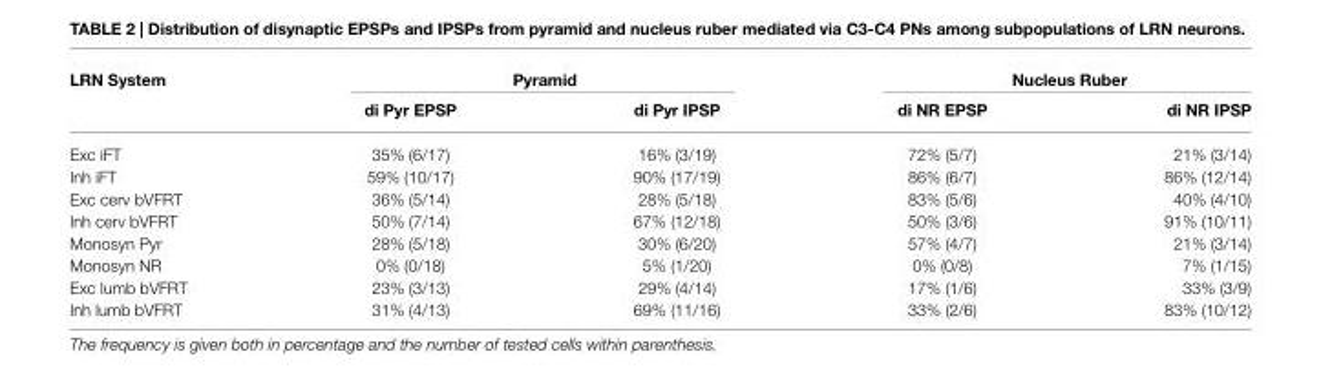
<table><thead><tr><td rowspan="2">LRN System</td><td colspan="2">Pyramid</td><td colspan="2">Nucleus Ruber</td></tr><tr><td>di Pyr EPSP</td><td>di Pyr IPSP</td><td>di NR EPSP</td><td>di NR IPSP</td></tr></thead><tbody><tr><td>Exc iFT</td><td>35% (6/17)</td><td>16% (3/19)</td><td>72% (5/7)</td><td>21% (3/14)</td></tr><tr><td>Inh iFT</td><td>59% (10/17)</td><td>90% (17/19)</td><td>86% (6/7)</td><td>86% (12/14)</td></tr><tr><td>Exc cerv bVFRT</td><td>36% (5/14)</td><td>28% (5/18)</td><td>83% (5/6)</td><td>40% (4/10)</td></tr><tr><td>Inh cerv bVFRT</td><td>50% (7/14)</td><td>67% (12/18)</td><td>50% (3/6)</td><td>91% (10/11)</td></tr><tr><td>Monosyn Pyr</td><td>28% (5/18)</td><td>30% (6/20)</td><td>57% (4/7)</td><td>21% (3/14)</td></tr><tr><td>Monosyn NR</td><td>0% (0/18)</td><td>5% (1/20)</td><td>0% (0/8)</td><td>7% (1/15)</td></tr><tr><td>Exc lumb bVFRT</td><td>23% (3/13)</td><td>29% (4/14)</td><td>17% (1/6)</td><td>33% (3/9)</td></tr><tr><td>Inh lumb bVFRT</td><td>31% (4/13)</td><td>69% (11/16)</td><td>33% (2/6)</td><td>83% (10/12)</td></tr></tbody></table>